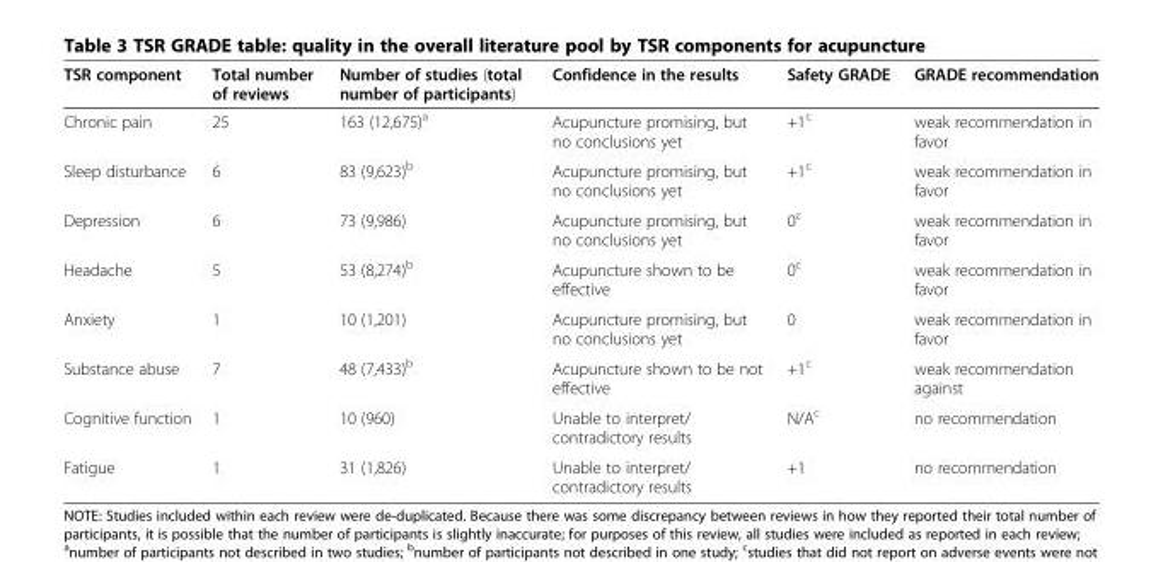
<table><thead><tr><td>TSR component</td><td>Total number of reviews</td><td>Number of studies (total number of participants)</td><td>Confidence in the results</td><td>Safety GRADE</td><td>GRADE recommendation</td></tr></thead><tbody><tr><td>Chronic pain</td><td>25</td><td>163 (12,675)<sup>a</sup></td><td>Acupuncture promising, but no conclusions yet</td><td>+1<sup>c</sup></td><td>weak recommendation in favor</td></tr><tr><td>Sleep disturbance</td><td>6</td><td>83 (9,623)<sup>b</sup></td><td>Acupuncture promising, but no conclusions yet</td><td>+1<sup>c</sup></td><td>weak recommendation in favor</td></tr><tr><td>Depression</td><td>6</td><td>73 (9,986)</td><td>Acupuncture promising, but no conclusions yet</td><td>0<sup>c</sup></td><td>weak recommendation in favor</td></tr><tr><td>Headache</td><td>5</td><td>53 (8,274)<sup>b</sup></td><td>Acupuncture shown to be effective</td><td>0<sup>c</sup></td><td>weak recommendation in favor</td></tr><tr><td>Anxiety</td><td>1</td><td>10 (1,201)</td><td>Acupuncture promising, but no conclusions yet</td><td>0</td><td>weak recommendation in favor</td></tr><tr><td>Substance abuse</td><td>7</td><td>48 (7,433)<sup>b</sup></td><td>Acupuncture shown to be not effective</td><td>+1<sup>c</sup></td><td>weak recommendation against</td></tr><tr><td>Cognitive function</td><td>1</td><td>10 (960)</td><td>Unable to interpret/ contradictory results</td><td>N/A<sup>c</sup></td><td>no recommendation</td></tr><tr><td>Fatigue</td><td>1</td><td>31 (1,826)</td><td>Unable to interpret/ contradictory results</td><td>+1</td><td>no recommendation</td></tr></tbody></table>